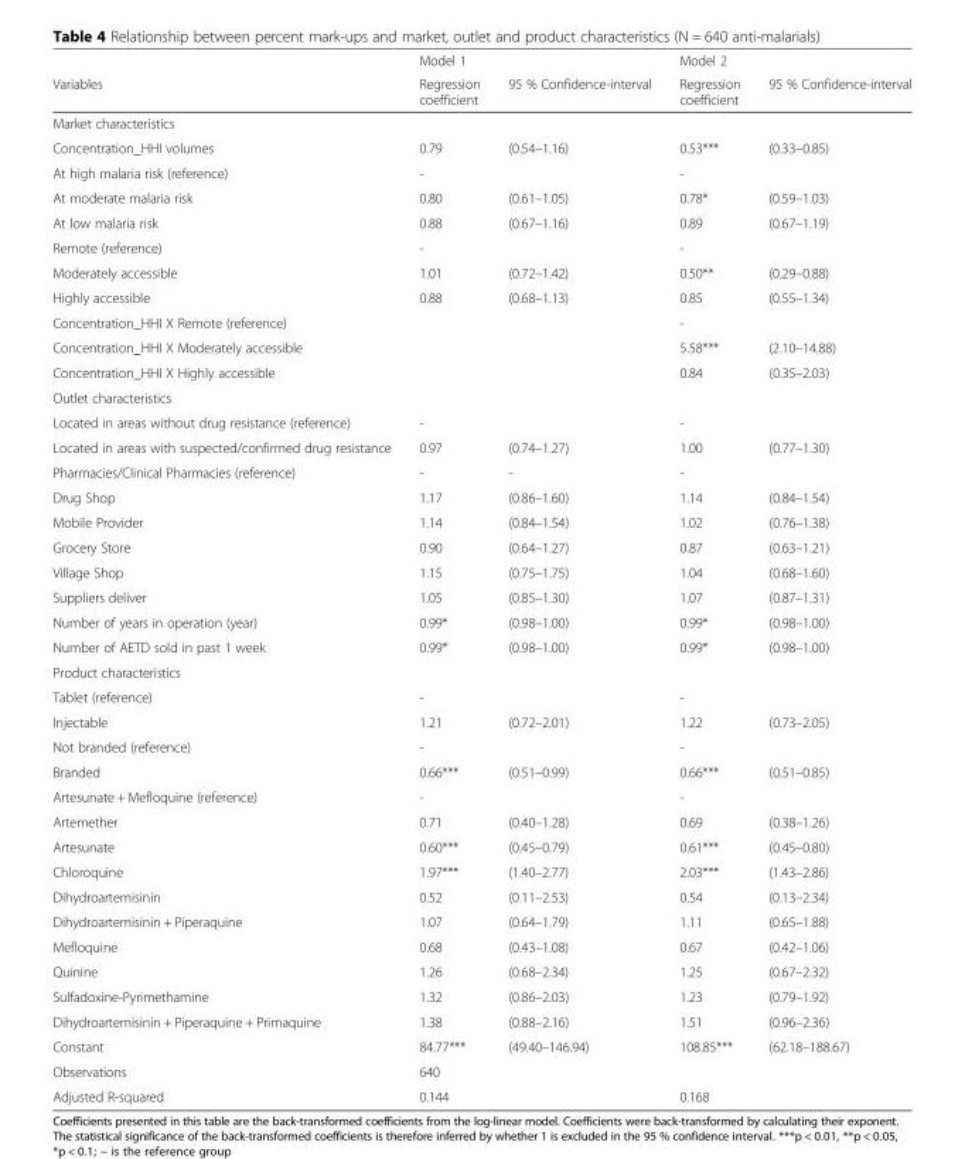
<table><thead><tr><td rowspan="2">Variables</td><td colspan="2">Model 1</td><td colspan="2">Model 2</td></tr><tr><td>Regression coefficient</td><td>95 % Confidence-interval</td><td>Regression coefficient</td><td>95 % Confidence-interval</td></tr></thead><tbody><tr><td colspan="5">Market characteristics</td></tr><tr><td>Concentration_HHI volumes</td><td>0.79</td><td>(0.54–1.16)</td><td>0.53***</td><td>(0.33–0.85)</td></tr><tr><td>At high malaria risk (reference)</td><td>-</td><td></td><td>-</td><td></td></tr><tr><td>At moderate malaria risk</td><td>0.80</td><td>(0.61–1.05)</td><td>0.78*</td><td>(0.59–1.03)</td></tr><tr><td>At low malaria risk</td><td>0.88</td><td>(0.67–1.16)</td><td>0.89</td><td>(0.67–1.19)</td></tr><tr><td>Remote (reference)</td><td>-</td><td></td><td>-</td><td></td></tr><tr><td>Moderately accessible</td><td>1.01</td><td>(0.72–1.42)</td><td>0.50**</td><td>(0.29–0.88)</td></tr><tr><td>Highly accessible</td><td>0.88</td><td>(0.68–1.13)</td><td>0.85</td><td>(0.55–1.34)</td></tr><tr><td>Concentration_HHI X Remote (reference)</td><td></td><td></td><td>-</td><td></td></tr><tr><td>Concentration_HHI X Moderately accessible</td><td></td><td></td><td>5.58***</td><td>(2.10–14.88)</td></tr><tr><td>Concentration_HHI X Highly accessible</td><td></td><td></td><td>0.84</td><td>(0.35–2.03)</td></tr><tr><td colspan="5">Outlet characteristics</td></tr><tr><td>Located in areas without drug resistance (reference)</td><td>-</td><td></td><td>-</td><td></td></tr><tr><td>Located in areas with suspected/confirmed drug resistance</td><td>0.97</td><td>(0.74–1.27)</td><td>1.00</td><td>(0.77–1.30)</td></tr><tr><td>Pharmacies/Clinical Pharmacies (reference)</td><td>-</td><td>-</td><td>-</td><td></td></tr><tr><td>Drug Shop</td><td>1.17</td><td>(0.86–1.60)</td><td>1.14</td><td>(0.84–1.54)</td></tr><tr><td>Mobile Provider</td><td>1.14</td><td>(0.84–1.54)</td><td>1.02</td><td>(0.76–1.38)</td></tr><tr><td>Grocery Store</td><td>0.90</td><td>(0.64–1.27)</td><td>0.87</td><td>(0.63–1.21)</td></tr><tr><td>Village Shop</td><td>1.15</td><td>(0.75–1.75)</td><td>1.04</td><td>(0.68–1.60)</td></tr><tr><td>Suppliers deliver</td><td>1.05</td><td>(0.85–1.30)</td><td>1.07</td><td>(0.87–1.31)</td></tr><tr><td>Number of years in operation (year)</td><td>0.99*</td><td>(0.98–1.00)</td><td>0.99*</td><td>(0.98–1.00)</td></tr><tr><td>Number of AETD sold in past 1 week</td><td>0.99*</td><td>(0.98–1.00)</td><td>0.99*</td><td>(0.98–1.00)</td></tr><tr><td colspan="5">Product characteristics</td></tr><tr><td>Tablet (reference)</td><td>-</td><td></td><td>-</td><td></td></tr><tr><td>Injectable</td><td>1.21</td><td>(0.72–2.01)</td><td>1.22</td><td>(0.73–2.05)</td></tr><tr><td>Not branded (reference)</td><td>-</td><td></td><td>-</td><td></td></tr><tr><td>Branded</td><td>0.66***</td><td>(0.51–0.99)</td><td>0.66***</td><td>(0.51–0.85)</td></tr><tr><td>Artesunate + Mefloquine (reference)</td><td>-</td><td></td><td>-</td><td></td></tr><tr><td>Artemether</td><td>0.71</td><td>(0.40–1.28)</td><td>0.69</td><td>(0.38–1.26)</td></tr><tr><td>Artesunate</td><td>0.60***</td><td>(0.45–0.79)</td><td>0.61***</td><td>(0.45–0.80)</td></tr><tr><td>Chloroquine</td><td>1.97***</td><td>(1.40–2.77)</td><td>2.03***</td><td>(1.43–2.86)</td></tr><tr><td>Dihydroartemisinin</td><td>0.52</td><td>(0.11–2.53)</td><td>0.54</td><td>(0.13–2.34)</td></tr><tr><td>Dihydroartemisinin + Piperaquine</td><td>1.07</td><td>(0.64–1.79)</td><td>1.11</td><td>(0.65–1.88)</td></tr><tr><td>Mefloquine</td><td>0.68</td><td>(0.43–1.08)</td><td>0.67</td><td>(0.42–1.06)</td></tr><tr><td>Quinine</td><td>1.26</td><td>(0.68–2.34)</td><td>1.25</td><td>(0.67–2.32)</td></tr><tr><td>Sulfadoxine-Pyrimethamine</td><td>1.32</td><td>(0.86–2.03)</td><td>1.23</td><td>(0.79–1.92)</td></tr><tr><td>Dihydroartemisinin + Piperaquine + Primaquine</td><td>1.38</td><td>(0.88–2.16)</td><td>1.51</td><td>(0.96–2.36)</td></tr><tr><td>Constant</td><td>84.77***</td><td>(49.40–146.94)</td><td>108.85***</td><td>(62.18–188.67)</td></tr><tr><td>Observations</td><td colspan="4">640</td></tr><tr><td>Adjusted R-squared</td><td colspan="2">0.144</td><td colspan="2">0.168</td></tr></tbody></table>